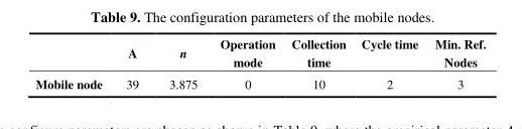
<table><thead><tr><td></td><td>A</td><td>n</td><td>Operation mode</td><td>Collection time</td><td>Cycle time</td><td>Min. Ref. Nodes</td></tr></thead><tbody><tr><td>Mobile node</td><td>39</td><td>3.875</td><td>0</td><td>10</td><td>2</td><td>3</td></tr></tbody></table>